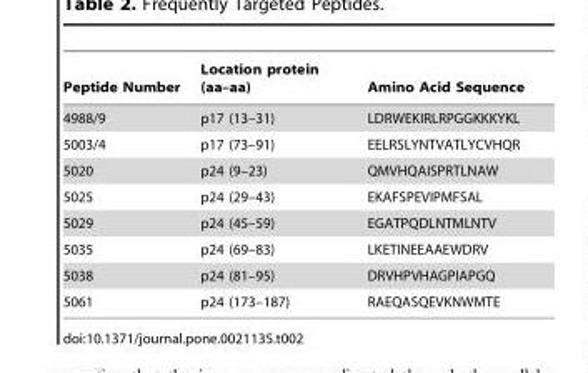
<table><thead><tr><td>Peptide Number</td><td>Location protein (aa–aa)</td><td>Amino Acid Sequence</td></tr></thead><tbody><tr><td>4988/9</td><td>p17 (13–31)</td><td>LDRWEKIRLRPGGKKKYKL</td></tr><tr><td>5003/4</td><td>p17 (73–91)</td><td>EELRSLYNTVATLYCVHQR</td></tr><tr><td>5020</td><td>p24 (9–23)</td><td>QMVHQAISPRTLNAW</td></tr><tr><td>5025</td><td>p24 (29–43)</td><td>EKAFSPEVIPMFSAL</td></tr><tr><td>5029</td><td>p24 (45–59)</td><td>EGATPQDLNTMLNTV</td></tr><tr><td>5035</td><td>p24 (69–83)</td><td>LKETINEEAAEWDRV</td></tr><tr><td>5038</td><td>p24 (81–95)</td><td>DRVHPVHAGPIAPGQ</td></tr><tr><td>5061</td><td>p24 (173–187)</td><td>RAEQASQEVKNWMTE</td></tr></tbody></table>